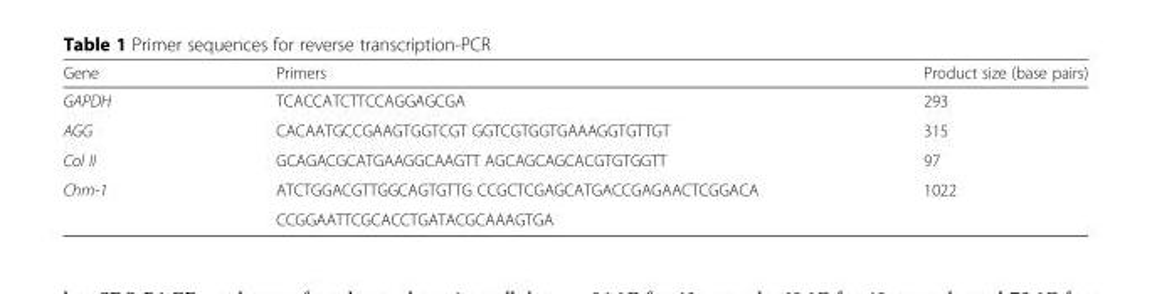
<table><thead><tr><td>Gene</td><td>Primers</td><td>Product size (base pairs)</td></tr></thead><tbody><tr><td>GAPDH</td><td>TCACCATCTTCCAGGAGCGA</td><td>293</td></tr><tr><td>AGG</td><td>CACAATGCCGAAGTGGTCGT GGTCGTGGTGAAAGGTGTTGT</td><td>315</td></tr><tr><td>Col II</td><td>GCAGACGCATGAAGGCAAGTT AGCAGCAGCACGTGTGGTT</td><td>97</td></tr><tr><td rowspan="2">Chm-1</td><td>ATCTGGACGTTGGCAGTGTTG CCGCTCGAGCATGACCGAGAACTCGGACA</td><td>1022</td></tr><tr><td>CCGGAATTCGCACCTGATACGCAAAGTGA</td><td></td></tr></tbody></table>